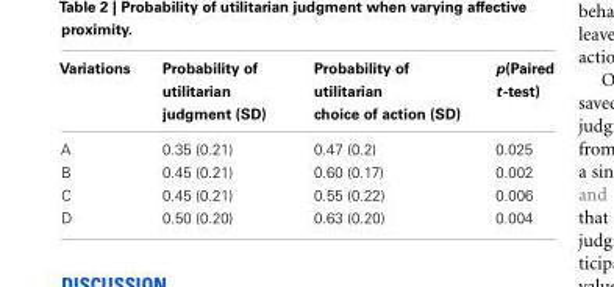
<table><thead><tr><td>Variations</td><td>Probability of utilitarian judgment (SD)</td><td>Probability of utilitarian choice of action (SD)</td><td>p(Paired t-test)</td></tr></thead><tbody><tr><td>A</td><td>0.35 (0.21)</td><td>0.47 (0.2)</td><td>0.025</td></tr><tr><td>B</td><td>0.45 (0.21)</td><td>0.60 (0.17)</td><td>0.002</td></tr><tr><td>C</td><td>0.45 (0.21)</td><td>0.55 (0.22)</td><td>0.006</td></tr><tr><td>D</td><td>0.50 (0.20)</td><td>0.63 (0.20)</td><td>0.004</td></tr></tbody></table>